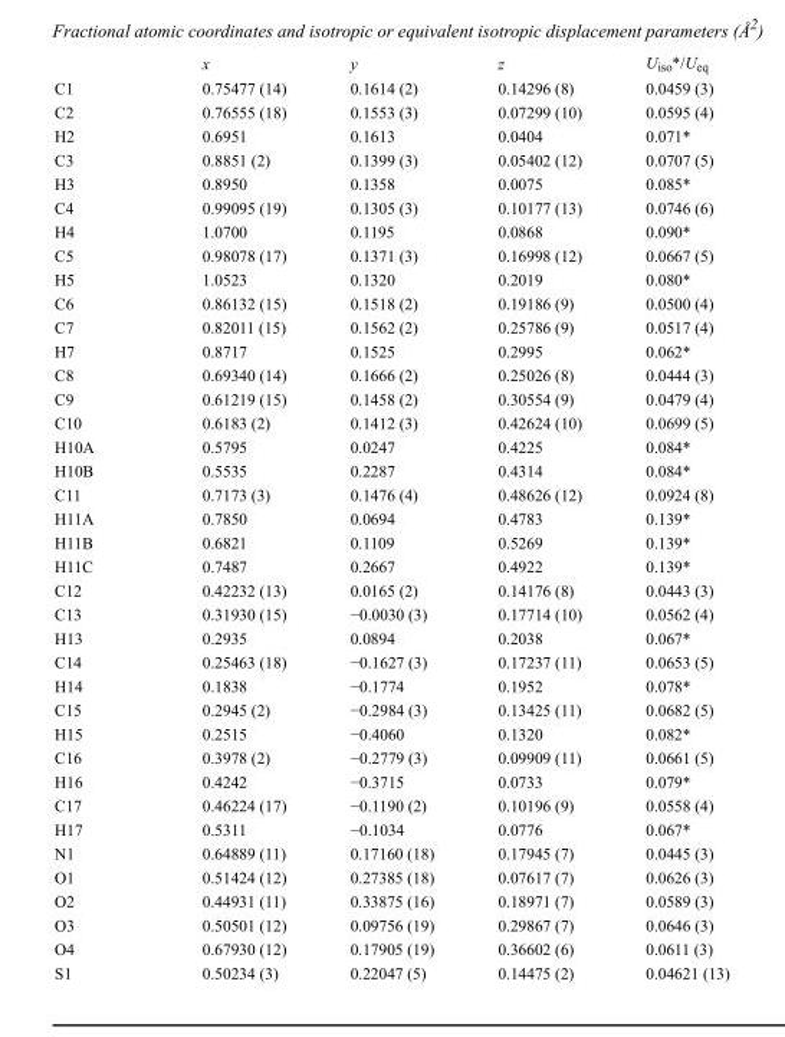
<table><thead><tr><td></td><td>x</td><td>y</td><td>z</td><td>U<sub>iso</sub>*/U<sub>eq</sub></td></tr></thead><tbody><tr><td>C1</td><td>0.75477 (14)</td><td>0.1614 (2)</td><td>0.14296 (8)</td><td>0.0459 (3)</td></tr><tr><td>C2</td><td>0.76555 (18)</td><td>0.1553 (3)</td><td>0.07299 (10)</td><td>0.0595 (4)</td></tr><tr><td>H2</td><td>0.6951</td><td>0.1613</td><td>0.0404</td><td>0.071*</td></tr><tr><td>C3</td><td>0.8851 (2)</td><td>0.1399 (3)</td><td>0.05402 (12)</td><td>0.0707 (5)</td></tr><tr><td>H3</td><td>0.8950</td><td>0.1358</td><td>0.0075</td><td>0.085*</td></tr><tr><td>C4</td><td>0.99095 (19)</td><td>0.1305 (3)</td><td>0.10177 (13)</td><td>0.0746 (6)</td></tr><tr><td>H4</td><td>1.0700</td><td>0.1195</td><td>0.0868</td><td>0.090*</td></tr><tr><td>C5</td><td>0.98078 (17)</td><td>0.1371 (3)</td><td>0.16998 (12)</td><td>0.0667 (5)</td></tr><tr><td>H5</td><td>1.0523</td><td>0.1320</td><td>0.2019</td><td>0.080*</td></tr><tr><td>C6</td><td>0.86132 (15)</td><td>0.1518 (2)</td><td>0.19186 (9)</td><td>0.0500 (4)</td></tr><tr><td>C7</td><td>0.82011 (15)</td><td>0.1562 (2)</td><td>0.25786 (9)</td><td>0.0517 (4)</td></tr><tr><td>H7</td><td>0.8717</td><td>0.1525</td><td>0.2995</td><td>0.062*</td></tr><tr><td>C8</td><td>0.69340 (14)</td><td>0.1666 (2)</td><td>0.25026 (8)</td><td>0.0444 (3)</td></tr><tr><td>C9</td><td>0.61219 (15)</td><td>0.1458 (2)</td><td>0.30554 (9)</td><td>0.0479 (4)</td></tr><tr><td>C10</td><td>0.6183 (2)</td><td>0.1412 (3)</td><td>0.42624 (10)</td><td>0.0699 (5)</td></tr><tr><td>H10A</td><td>0.5795</td><td>0.0247</td><td>0.4225</td><td>0.084*</td></tr><tr><td>H10B</td><td>0.5535</td><td>0.2287</td><td>0.4314</td><td>0.084*</td></tr><tr><td>C11</td><td>0.7173 (3)</td><td>0.1476 (4)</td><td>0.48626 (12)</td><td>0.0924 (8)</td></tr><tr><td>H11A</td><td>0.7850</td><td>0.0694</td><td>0.4783</td><td>0.139*</td></tr><tr><td>H11B</td><td>0.6821</td><td>0.1109</td><td>0.5269</td><td>0.139*</td></tr><tr><td>H11C</td><td>0.7487</td><td>0.2667</td><td>0.4922</td><td>0.139*</td></tr><tr><td>C12</td><td>0.42232 (13)</td><td>0.0165 (2)</td><td>0.14176 (8)</td><td>0.0443 (3)</td></tr><tr><td>C13</td><td>0.31930 (15)</td><td>−0.0030 (3)</td><td>0.17714 (10)</td><td>0.0562 (4)</td></tr><tr><td>H13</td><td>0.2935</td><td>0.0894</td><td>0.2038</td><td>0.067*</td></tr><tr><td>C14</td><td>0.25463 (18)</td><td>−0.1627 (3)</td><td>0.17237 (11)</td><td>0.0653 (5)</td></tr><tr><td>H14</td><td>0.1838</td><td>−0.1774</td><td>0.1952</td><td>0.078*</td></tr><tr><td>C15</td><td>0.2945 (2)</td><td>−0.2984 (3)</td><td>0.13425 (11)</td><td>0.0682 (5)</td></tr><tr><td>H15</td><td>0.2515</td><td>−0.4060</td><td>0.1320</td><td>0.082*</td></tr><tr><td>C16</td><td>0.3978 (2)</td><td>−0.2779 (3)</td><td>0.09909 (11)</td><td>0.0661 (5)</td></tr><tr><td>H16</td><td>0.4242</td><td>−0.3715</td><td>0.0733</td><td>0.079*</td></tr><tr><td>C17</td><td>0.46224 (17)</td><td>−0.1190 (2)</td><td>0.10196 (9)</td><td>0.0558 (4)</td></tr><tr><td>H17</td><td>0.5311</td><td>−0.1034</td><td>0.0776</td><td>0.067*</td></tr><tr><td>N1</td><td>0.64889 (11)</td><td>0.17160 (18)</td><td>0.17945 (7)</td><td>0.0445 (3)</td></tr><tr><td>O1</td><td>0.51424 (12)</td><td>0.27385 (18)</td><td>0.07617 (7)</td><td>0.0626 (3)</td></tr><tr><td>O2</td><td>0.44931 (11)</td><td>0.33875 (16)</td><td>0.18971 (7)</td><td>0.0589 (3)</td></tr><tr><td>O3</td><td>0.50501 (12)</td><td>0.09756 (19)</td><td>0.29867 (7)</td><td>0.0646 (3)</td></tr><tr><td>O4</td><td>0.67930 (12)</td><td>0.17905 (19)</td><td>0.36602 (6)</td><td>0.0611 (3)</td></tr><tr><td>S1</td><td>0.50234 (3)</td><td>0.22047 (5)</td><td>0.14475 (2)</td><td>0.04621 (13)</td></tr></tbody></table>